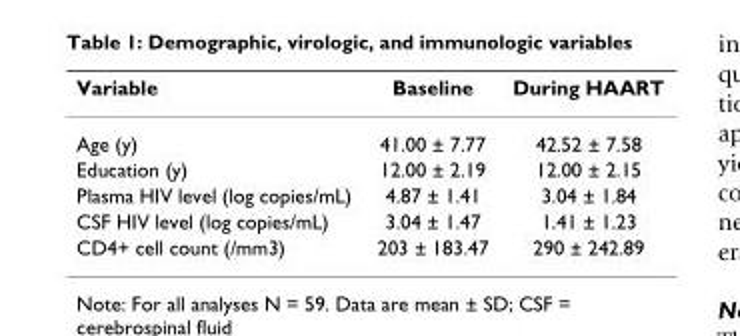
<table><thead><tr><td>Variable</td><td>Baseline</td><td>During HAART</td></tr></thead><tbody><tr><td>Age (y)</td><td>41.00 ± 7.77</td><td>42.52 ± 7.58</td></tr><tr><td>Education (y)</td><td>12.00 ± 2.19</td><td>12.00 ± 2.15</td></tr><tr><td>Plasma HIV level (log copies/mL)</td><td>4.87 ± 1.41</td><td>3.04 ± 1.84</td></tr><tr><td>CSF HIV level (log copies/mL)</td><td>3.04 ± 1.47</td><td>1.41 ± 1.23</td></tr><tr><td>CD4+ cell count (/mm3)</td><td>203 ± 183.47</td><td>290 ± 242.89</td></tr></tbody></table>